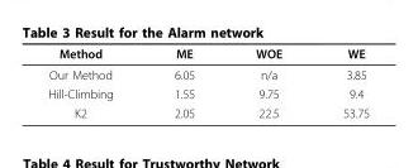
<table><thead><tr><td>Method</td><td>ME</td><td>WOE</td><td>WE</td></tr></thead><tbody><tr><td>Our Method</td><td>6.05</td><td>n/a</td><td>3.85</td></tr><tr><td>Hill-Climbing</td><td>1.55</td><td>9.75</td><td>9.4</td></tr><tr><td>K2</td><td>2.05</td><td>22.5</td><td>53.75</td></tr></tbody></table>